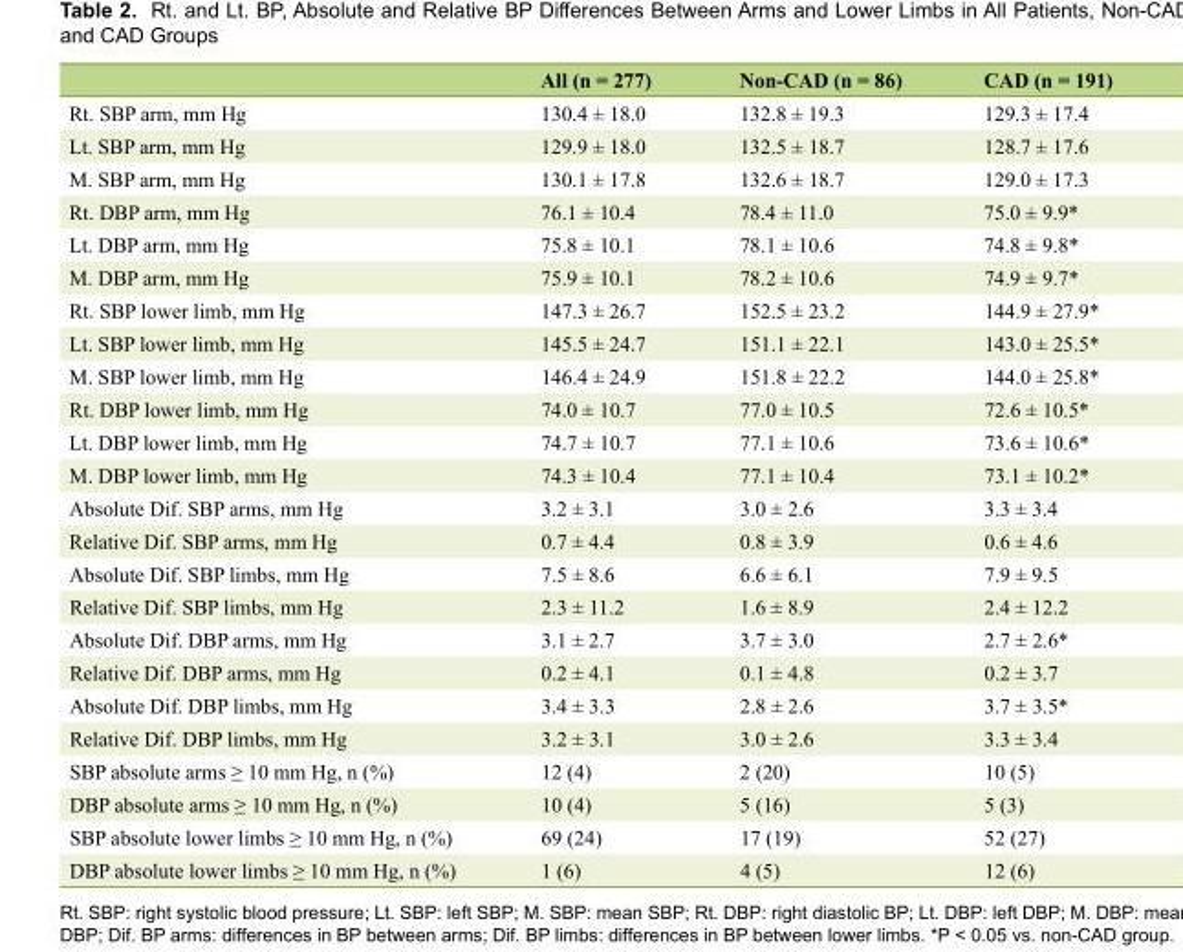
<table><thead><tr><td></td><td>All (n = 277)</td><td>Non-CAD (n = 86)</td><td>CAD (n = 191)</td></tr></thead><tbody><tr><td>Rt. SBP arm, mm Hg</td><td>130.4 ± 18.0</td><td>132.8 ± 19.3</td><td>129.3 ± 17.4</td></tr><tr><td>Lt. SBP arm, mm Hg</td><td>129.9 ± 18.0</td><td>132.5 ± 18.7</td><td>128.7 ± 17.6</td></tr><tr><td>M. SBP arm, mm Hg</td><td>130.1 ± 17.8</td><td>132.6 ± 18.7</td><td>129.0 ± 17.3</td></tr><tr><td>Rt. DBP arm, mm Hg</td><td>76.1 ± 10.4</td><td>78.4 ± 11.0</td><td>75.0 ± 9.9*</td></tr><tr><td>Lt. DBP arm, mm Hg</td><td>75.8 ± 10.1</td><td>78.1 ± 10.6</td><td>74.8 ± 9.8*</td></tr><tr><td>M. DBP arm, mm Hg</td><td>75.9 ± 10.1</td><td>78.2 ± 10.6</td><td>74.9 ± 9.7*</td></tr><tr><td>Rt. SBP lower limb, mm Hg</td><td>147.3 ± 26.7</td><td>152.5 ± 23.2</td><td>144.9 ± 27.9*</td></tr><tr><td>Lt. SBP lower limb, mm Hg</td><td>145.5 ± 24.7</td><td>151.1 ± 22.1</td><td>143.0 ± 25.5*</td></tr><tr><td>M. SBP lower limb, mm Hg</td><td>146.4 ± 24.9</td><td>151.8 ± 22.2</td><td>144.0 ± 25.8*</td></tr><tr><td>Rt. DBP lower limb, mm Hg</td><td>74.0 ± 10.7</td><td>77.0 ± 10.5</td><td>72.6 ± 10.5*</td></tr><tr><td>Lt. DBP lower limb, mm Hg</td><td>74.7 ± 10.7</td><td>77.1 ± 10.6</td><td>73.6 ± 10.6*</td></tr><tr><td>M. DBP lower limb, mm Hg</td><td>74.3 ± 10.4</td><td>77.1 ± 10.4</td><td>73.1 ± 10.2*</td></tr><tr><td>Absolute Dif. SBP arms, mm Hg</td><td>3.2 ± 3.1</td><td>3.0 ± 2.6</td><td>3.3 ± 3.4</td></tr><tr><td>Relative Dif. SBP arms, mm Hg</td><td>0.7 ± 4.4</td><td>0.8 ± 3.9</td><td>0.6 ± 4.6</td></tr><tr><td>Absolute Dif. SBP limbs, mm Hg</td><td>7.5 ± 8.6</td><td>6.6 ± 6.1</td><td>7.9 ± 9.5</td></tr><tr><td>Relative Dif. SBP limbs, mm Hg</td><td>2.3 ± 11.2</td><td>1.6 ± 8.9</td><td>2.4 ± 12.2</td></tr><tr><td>Absolute Dif. DBP arms, mm Hg</td><td>3.1 ± 2.7</td><td>3.7 ± 3.0</td><td>2.7 ± 2.6*</td></tr><tr><td>Relative Dif. DBP arms, mm Hg</td><td>0.2 ± 4.1</td><td>0.1 ± 4.8</td><td>0.2 ± 3.7</td></tr><tr><td>Absolute Dif. DBP limbs, mm Hg</td><td>3.4 ± 3.3</td><td>2.8 ± 2.6</td><td>3.7 ± 3.5*</td></tr><tr><td>Relative Dif. DBP limbs, mm Hg</td><td>3.2 ± 3.1</td><td>3.0 ± 2.6</td><td>3.3 ± 3.4</td></tr><tr><td>SBP absolute arms ≥ 10 mm Hg, n (%)</td><td>12 (4)</td><td>2 (20)</td><td>10 (5)</td></tr><tr><td>DBP absolute arms ≥ 10 mm Hg, n (%)</td><td>10 (4)</td><td>5 (16)</td><td>5 (3)</td></tr><tr><td>SBP absolute lower limbs ≥ 10 mm Hg, n (%)</td><td>69 (24)</td><td>17 (19)</td><td>52 (27)</td></tr><tr><td>DBP absolute lower limbs ≥ 10 mm Hg, n (%)</td><td>1 (6)</td><td>4 (5)</td><td>12 (6)</td></tr></tbody></table>